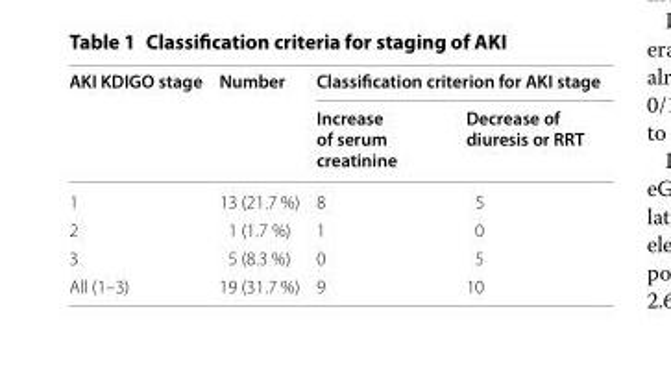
<table><thead><tr><td rowspan="2">AKI KDIGO stage</td><td rowspan="2">Number</td><td colspan="2">Classification criterion for AKI stage</td></tr><tr><td>Increase of serum creatinine</td><td>Decrease of diuresis or RRT</td></tr></thead><tbody><tr><td>1</td><td>13 (21.7 %)</td><td>8</td><td>5</td></tr><tr><td>2</td><td>1 (1.7 %)</td><td>1</td><td>0</td></tr><tr><td>3</td><td>5 (8.3 %)</td><td>0</td><td>5</td></tr><tr><td>All (1–3)</td><td>19 (31.7 %)</td><td>9</td><td>10</td></tr></tbody></table>